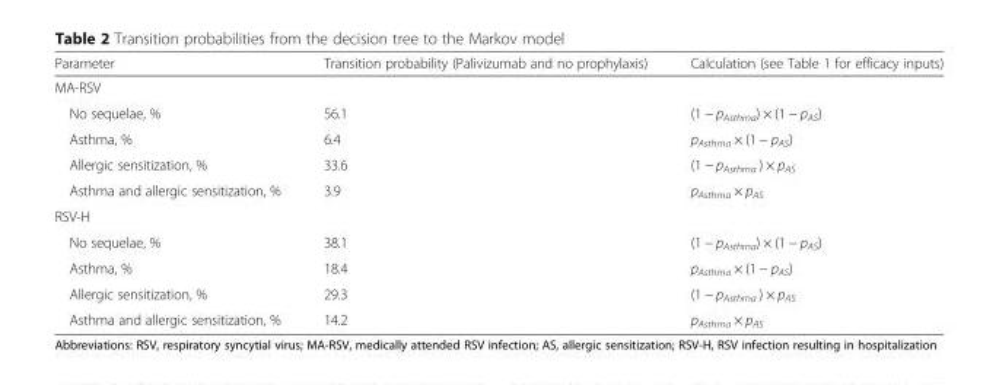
<table><thead><tr><td>Parameter</td><td>Transition probability (Palivizumab and no prophylaxis)</td><td>Calculation (see Table 1 for efficacy inputs)</td></tr></thead><tbody><tr><td colspan="3">MA-RSV</td></tr><tr><td>No sequelae, %</td><td>56.1</td><td>(1 − p<sub>Asthma</sub>) × (1 − p<sub>AS</sub>)</td></tr><tr><td>Asthma, %</td><td>6.4</td><td>p<sub>Asthma</sub> × (1 − p<sub>AS</sub>)</td></tr><tr><td>Allergic sensitization, %</td><td>33.6</td><td>(1 − p<sub>Asthma</sub> ) × p<sub>AS</sub></td></tr><tr><td>Asthma and allergic sensitization, %</td><td>3.9</td><td>p<sub>Asthma</sub> × p<sub>AS</sub></td></tr><tr><td colspan="3">RSV-H</td></tr><tr><td>No sequelae, %</td><td>38.1</td><td>(1 − p<sub>Asthma</sub>) × (1 − p<sub>AS</sub>)</td></tr><tr><td>Asthma, %</td><td>18.4</td><td>p<sub>Asthma</sub> × (1 − p<sub>AS</sub>)</td></tr><tr><td>Allergic sensitization, %</td><td>29.3</td><td>(1 − p<sub>Asthma</sub> ) × p<sub>AS</sub></td></tr><tr><td>Asthma and allergic sensitization, %</td><td>14.2</td><td>p<sub>Asthma</sub> × p<sub>AS</sub></td></tr></tbody></table>